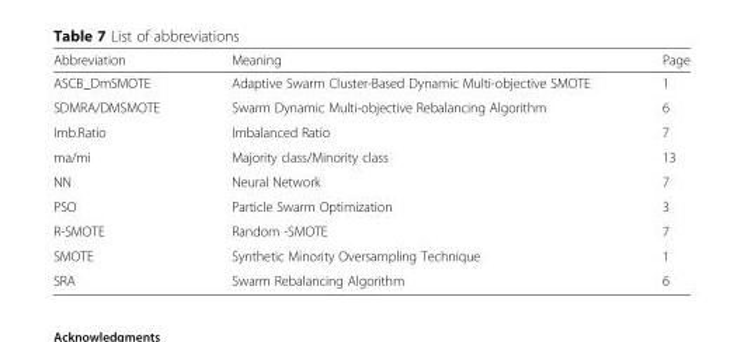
<table><thead><tr><td>Abbreviation</td><td>Meaning</td><td>Page</td></tr></thead><tbody><tr><td>ASCB_DmSMOTE</td><td>Adaptive Swarm Cluster-Based Dynamic Multi-objective SMOTE</td><td>1</td></tr><tr><td>SDMRA/DMSMOTE</td><td>Swarm Dynamic Multi-objective Rebalancing Algorithm</td><td>6</td></tr><tr><td>Imb.Ratio</td><td>Imbalanced Ratio</td><td>7</td></tr><tr><td>ma/mi</td><td>Majority class/Minority class</td><td>13</td></tr><tr><td>NN</td><td>Neural Network</td><td>7</td></tr><tr><td>PSO</td><td>Particle Swarm Optimization</td><td>3</td></tr><tr><td>R-SMOTE</td><td>Random -SMOTE</td><td>7</td></tr><tr><td>SMOTE</td><td>Synthetic Minority Oversampling Technique</td><td>1</td></tr><tr><td>SRA</td><td>Swarm Rebalancing Algorithm</td><td>6</td></tr></tbody></table>